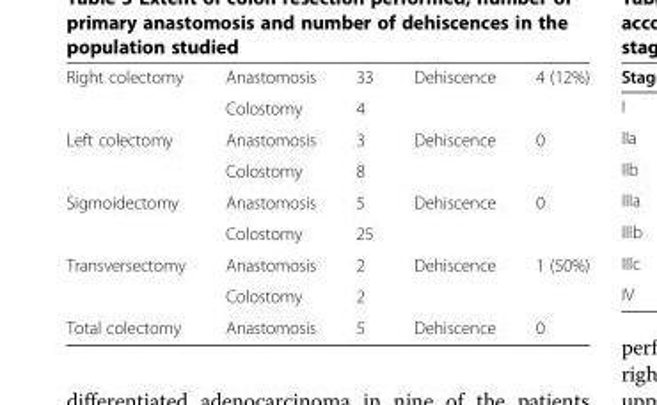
<table><tbody><tr><td rowspan="2">Right colectomy</td><td>Anastomosis</td><td>33</td><td>Dehiscence</td><td>4 (12%)</td></tr><tr><td>Colostomy</td><td>4</td><td></td><td></td></tr><tr><td rowspan="2">Left colectomy</td><td>Anastomosis</td><td>3</td><td>Dehiscence</td><td>0</td></tr><tr><td>Colostomy</td><td>8</td><td></td><td></td></tr><tr><td rowspan="2">Sigmoidectomy</td><td>Anastomosis</td><td>5</td><td>Dehiscence</td><td>0</td></tr><tr><td>Colostomy</td><td>25</td><td></td><td></td></tr><tr><td rowspan="2">Transversectomy</td><td>Anastomosis</td><td>2</td><td>Dehiscence</td><td>1 (50%)</td></tr><tr><td>Colostomy</td><td>2</td><td></td><td></td></tr><tr><td>Total colectomy</td><td>Anastomosis</td><td>5</td><td>Dehiscence</td><td>0</td></tr></tbody></table>